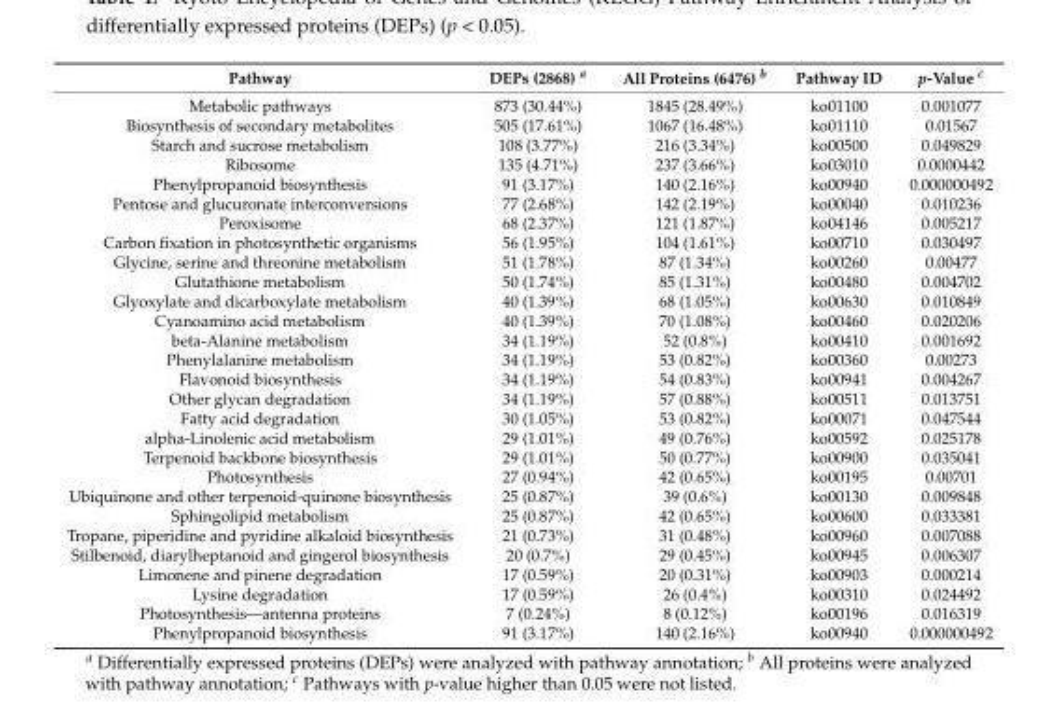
<table><thead><tr><td>Pathway</td><td>DEPs (2868) <sup>a</sup></td><td>All Proteins (6476) <sup>b</sup></td><td>Pathway ID</td><td>p-Value <sup>c</sup></td></tr></thead><tbody><tr><td>Metabolic pathways</td><td>873 (30.44%)</td><td>1845 (28.49%)</td><td>ko01100</td><td>0.001077</td></tr><tr><td>Biosynthesis of secondary metabolites</td><td>505 (17.61%)</td><td>1067 (16.48%)</td><td>ko01110</td><td>0.01567</td></tr><tr><td>Starch and sucrose metabolism</td><td>108 (3.77%)</td><td>216 (3.34%)</td><td>ko00500</td><td>0.049829</td></tr><tr><td>Ribosome</td><td>135 (4.71%)</td><td>237 (3.66%)</td><td>ko03010</td><td>0.0000442</td></tr><tr><td>Phenylpropanoid biosynthesis</td><td>91 (3.17%)</td><td>140 (2.16%)</td><td>ko00940</td><td>0.000000492</td></tr><tr><td>Pentose and glucuronate interconversions</td><td>77 (2.68%)</td><td>142 (2.19%)</td><td>ko00040</td><td>0.010236</td></tr><tr><td>Peroxisome</td><td>68 (2.37%)</td><td>121 (1.87%)</td><td>ko04146</td><td>0.005217</td></tr><tr><td>Carbon fixation in photosynthetic organisms</td><td>56 (1.95%)</td><td>104 (1.61%)</td><td>ko00710</td><td>0.030497</td></tr><tr><td>Glycine, serine and threonine metabolism</td><td>51 (1.78%)</td><td>87 (1.34%)</td><td>ko00260</td><td>0.00477</td></tr><tr><td>Glutathione metabolism</td><td>50 (1.74%)</td><td>85 (1.31%)</td><td>ko00480</td><td>0.004702</td></tr><tr><td>Glyoxylate and dicarboxylate metabolism</td><td>40 (1.39%)</td><td>68 (1.05%)</td><td>ko00630</td><td>0.010849</td></tr><tr><td>Cyanoamino acid metabolism</td><td>40 (1.39%)</td><td>70 (1.08%)</td><td>ko00460</td><td>0.020206</td></tr><tr><td>beta-Alanine metabolism</td><td>34 (1.19%)</td><td>52 (0.8%)</td><td>ko00410</td><td>0.001692</td></tr><tr><td>Phenylalanine metabolism</td><td>34 (1.19%)</td><td>53 (0.82%)</td><td>ko00360</td><td>0.00273</td></tr><tr><td>Flavonoid biosynthesis</td><td>34 (1.19%)</td><td>54 (0.83%)</td><td>ko00941</td><td>0.004267</td></tr><tr><td>Other glycan degradation</td><td>34 (1.19%)</td><td>57 (0.88%)</td><td>ko00511</td><td>0.013751</td></tr><tr><td>Fatty acid degradation</td><td>30 (1.05%)</td><td>53 (0.82%)</td><td>ko00071</td><td>0.047544</td></tr><tr><td>alpha-Linolenic acid metabolism</td><td>29 (1.01%)</td><td>49 (0.76%)</td><td>ko00592</td><td>0.025178</td></tr><tr><td>Terpenoid backbone biosynthesis</td><td>29 (1.01%)</td><td>50 (0.77%)</td><td>ko00900</td><td>0.035041</td></tr><tr><td>Photosynthesis</td><td>27 (0.94%)</td><td>42 (0.65%)</td><td>ko00195</td><td>0.00701</td></tr><tr><td>Ubiquinone and other terpenoid-quinone biosynthesis</td><td>25 (0.87%)</td><td>39 (0.6%)</td><td>ko00130</td><td>0.009848</td></tr><tr><td>Sphingolipid metabolism</td><td>25 (0.87%)</td><td>42 (0.65%)</td><td>ko00600</td><td>0.033381</td></tr><tr><td>Tropane, piperidine and pyridine alkaloid biosynthesis</td><td>21 (0.73%)</td><td>31 (0.48%)</td><td>ko00960</td><td>0.007088</td></tr><tr><td>Stilbenoid, diarylheptanoid and gingerol biosynthesis</td><td>20 (0.7%)</td><td>29 (0.45%)</td><td>ko00945</td><td>0.006307</td></tr><tr><td>Limonene and pinene degradation</td><td>17 (0.59%)</td><td>20 (0.31%)</td><td>ko00903</td><td>0.000214</td></tr><tr><td>Lysine degradation</td><td>17 (0.59%)</td><td>26 (0.4%)</td><td>ko00310</td><td>0.024492</td></tr><tr><td>Photosynthesis—antenna proteins</td><td>7 (0.24%)</td><td>8 (0.12%)</td><td>ko00196</td><td>0.016319</td></tr><tr><td>Phenylpropanoid biosynthesis</td><td>91 (3.17%)</td><td>140 (2.16%)</td><td>ko00940</td><td>0.000000492</td></tr></tbody></table>